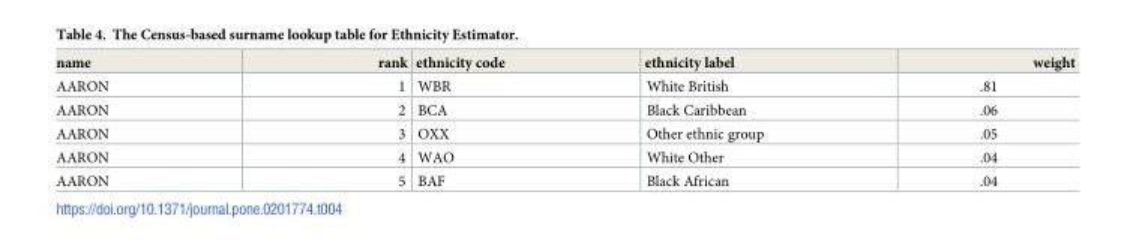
<table><thead><tr><td>name</td><td>rank</td><td>ethnicity code</td><td>ethnicity label</td><td>weight</td></tr></thead><tbody><tr><td>AARON</td><td>1</td><td>WBR</td><td>White British</td><td>.81</td></tr><tr><td>AARON</td><td>2</td><td>BCA</td><td>Black Caribbean</td><td>.06</td></tr><tr><td>AARON</td><td>3</td><td>OXX</td><td>Other ethnic group</td><td>.05</td></tr><tr><td>AARON</td><td>4</td><td>WAO</td><td>White Other</td><td>.04</td></tr><tr><td>AARON</td><td>5</td><td>BAF</td><td>Black African</td><td>.04</td></tr></tbody></table>